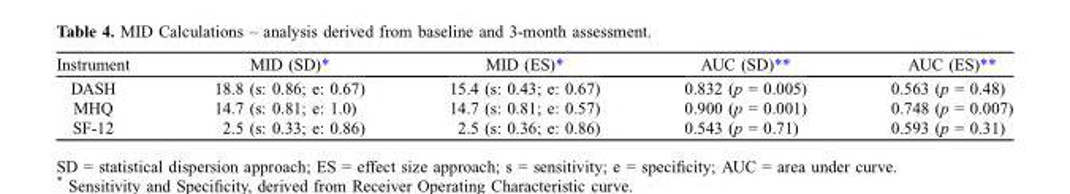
<table><thead><tr><td>Instrument</td><td>MID (SD)*</td><td>MID (ES)*</td><td>AUC (SD)**</td><td>AUC (ES)**</td></tr></thead><tbody><tr><td>DASH</td><td>18.8 (s: 0.86; e: 0.67)</td><td>15.4 (s: 0.43; e: 0.67)</td><td>0.832 (p = 0.005)</td><td>0.563 (p = 0.48)</td></tr><tr><td>MHQ</td><td>14.7 (s: 0.81; e: 1.0)</td><td>14.7 (s: 0.81; e: 0.57)</td><td>0.900 (p = 0.001)</td><td>0.748 (p = 0.007)</td></tr><tr><td>SF-12</td><td>2.5 (s: 0.33; e: 0.86)</td><td>2.5 (s: 0.36; e: 0.86)</td><td>0.543 (p = 0.71)</td><td>0.593 (p = 0.31)</td></tr></tbody></table>